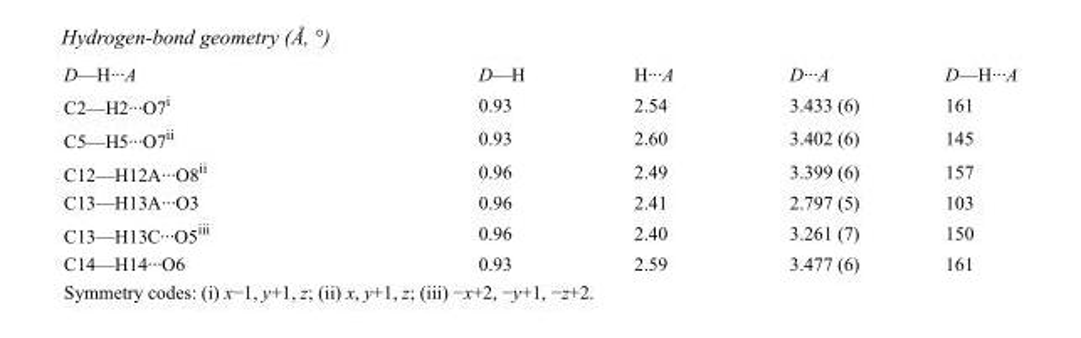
<table><tbody><tr><td>D—H···A</td><td>D—H</td><td>H···A</td><td>D···A</td><td>D—H···A</td></tr><tr><td>C2—H2···O7<sup>i</sup></td><td>0.93</td><td>2.54</td><td>3.433 (6)</td><td>161</td></tr><tr><td>C5—H5···O7<sup>ii</sup></td><td>0.93</td><td>2.60</td><td>3.402 (6)</td><td>145</td></tr><tr><td>C12—H12A···O8<sup>ii</sup></td><td>0.96</td><td>2.49</td><td>3.399 (6)</td><td>157</td></tr><tr><td>C13—H13A···O3</td><td>0.96</td><td>2.41</td><td>2.797 (5)</td><td>103</td></tr><tr><td>C13—H13C···O5<sup>iii</sup></td><td>0.96</td><td>2.40</td><td>3.261 (7)</td><td>150</td></tr><tr><td>C14—H14···O6</td><td>0.93</td><td>2.59</td><td>3.477 (6)</td><td>161</td></tr></tbody></table>